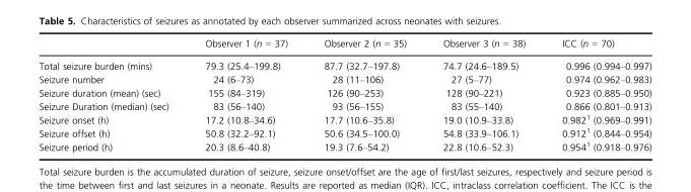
<table><thead><tr><td></td><td>Observer 1 (n = 37)</td><td>Observer 2 (n = 35)</td><td>Observer 3 (n = 38)</td><td>ICC (n = 70)</td></tr></thead><tbody><tr><td>Total seizure burden (mins)</td><td>79.3 (25.4–199.8)</td><td>87.7 (32.7–197.8)</td><td>74.7 (24.6–189.5)</td><td>0.996 (0.994–0.997)</td></tr><tr><td>Seizure number</td><td>24 (6–73)</td><td>28 (11–106)</td><td>27 (5–77)</td><td>0.974 (0.962–0.983)</td></tr><tr><td>Seizure duration (mean) (sec)</td><td>155 (84–319)</td><td>126 (90–253)</td><td>128 (90–221)</td><td>0.923 (0.885–0.950)</td></tr><tr><td>Seizure Duration (median) (sec)</td><td>83 (56–140)</td><td>93 (56–155)</td><td>83 (55–140)</td><td>0.866 (0.801–0.913)</td></tr><tr><td>Seizure onset (h)</td><td>17.2 (10.8–34.6)</td><td>17.7 (10.6–35.8)</td><td>19.0 (10.9–33.8)</td><td>0.9821 (0.969–0.991)</td></tr><tr><td>Seizure offset (h)</td><td>50.8 (32.2–92.1)</td><td>50.6 (34.5–100.0)</td><td>54.8 (33.9–106.1)</td><td>0.9121 (0.844–0.954)</td></tr><tr><td>Seizure period (h)</td><td>20.3 (8.6–40.8)</td><td>19.3 (7.6–54.2)</td><td>22.8 (10.6–52.3)</td><td>0.9541 (0.918–0.976)</td></tr></tbody></table>